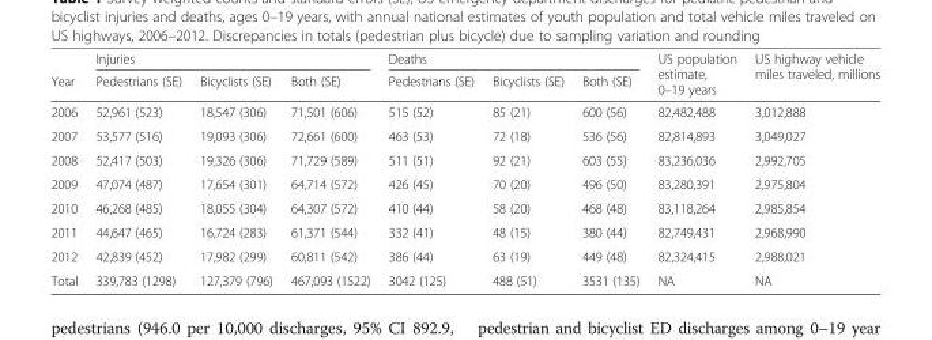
<table><thead><tr><td rowspan="2">Year</td><td colspan="3">Injuries</td><td colspan="3">Deaths</td><td rowspan="2">US population estimate, 0–19 years</td><td rowspan="2">US highway vehicle miles traveled, millions</td></tr><tr><td>Pedestrians (SE)</td><td>Bicyclists (SE)</td><td>Both (SE)</td><td>Pedestrians (SE)</td><td>Bicyclists (SE)</td><td>Both (SE)</td></tr></thead><tbody><tr><td>2006</td><td>52,961 (523)</td><td>18,547 (306)</td><td>71,501 (606)</td><td>515 (52)</td><td>85 (21)</td><td>600 (56)</td><td>82,482,488</td><td>3,012,888</td></tr><tr><td>2007</td><td>53,577 (516)</td><td>19,093 (306)</td><td>72,661 (600)</td><td>463 (53)</td><td>72 (18)</td><td>536 (56)</td><td>82,814,893</td><td>3,049,027</td></tr><tr><td>2008</td><td>52,417 (503)</td><td>19,326 (306)</td><td>71,729 (589)</td><td>511 (51)</td><td>92 (21)</td><td>603 (55)</td><td>83,236,036</td><td>2,992,705</td></tr><tr><td>2009</td><td>47,074 (487)</td><td>17,654 (301)</td><td>64,714 (572)</td><td>426 (45)</td><td>70 (20)</td><td>496 (50)</td><td>83,280,391</td><td>2,975,804</td></tr><tr><td>2010</td><td>46,268 (485)</td><td>18,055 (304)</td><td>64,307 (572)</td><td>410 (44)</td><td>58 (20)</td><td>468 (48)</td><td>83,118,264</td><td>2,985,854</td></tr><tr><td>2011</td><td>44,647 (465)</td><td>16,724 (283)</td><td>61,371 (544)</td><td>332 (41)</td><td>48 (15)</td><td>380 (44)</td><td>82,749,431</td><td>2,968,990</td></tr><tr><td>2012</td><td>42,839 (452)</td><td>17,982 (299)</td><td>60,811 (542)</td><td>386 (44)</td><td>63 (19)</td><td>449 (48)</td><td>82,324,415</td><td>2,988,021</td></tr><tr><td>Total</td><td>339,783 (1298)</td><td>127,379 (796)</td><td>467,093 (1522)</td><td>3042 (125)</td><td>488 (51)</td><td>3531 (135)</td><td>NA</td><td>NA</td></tr></tbody></table>